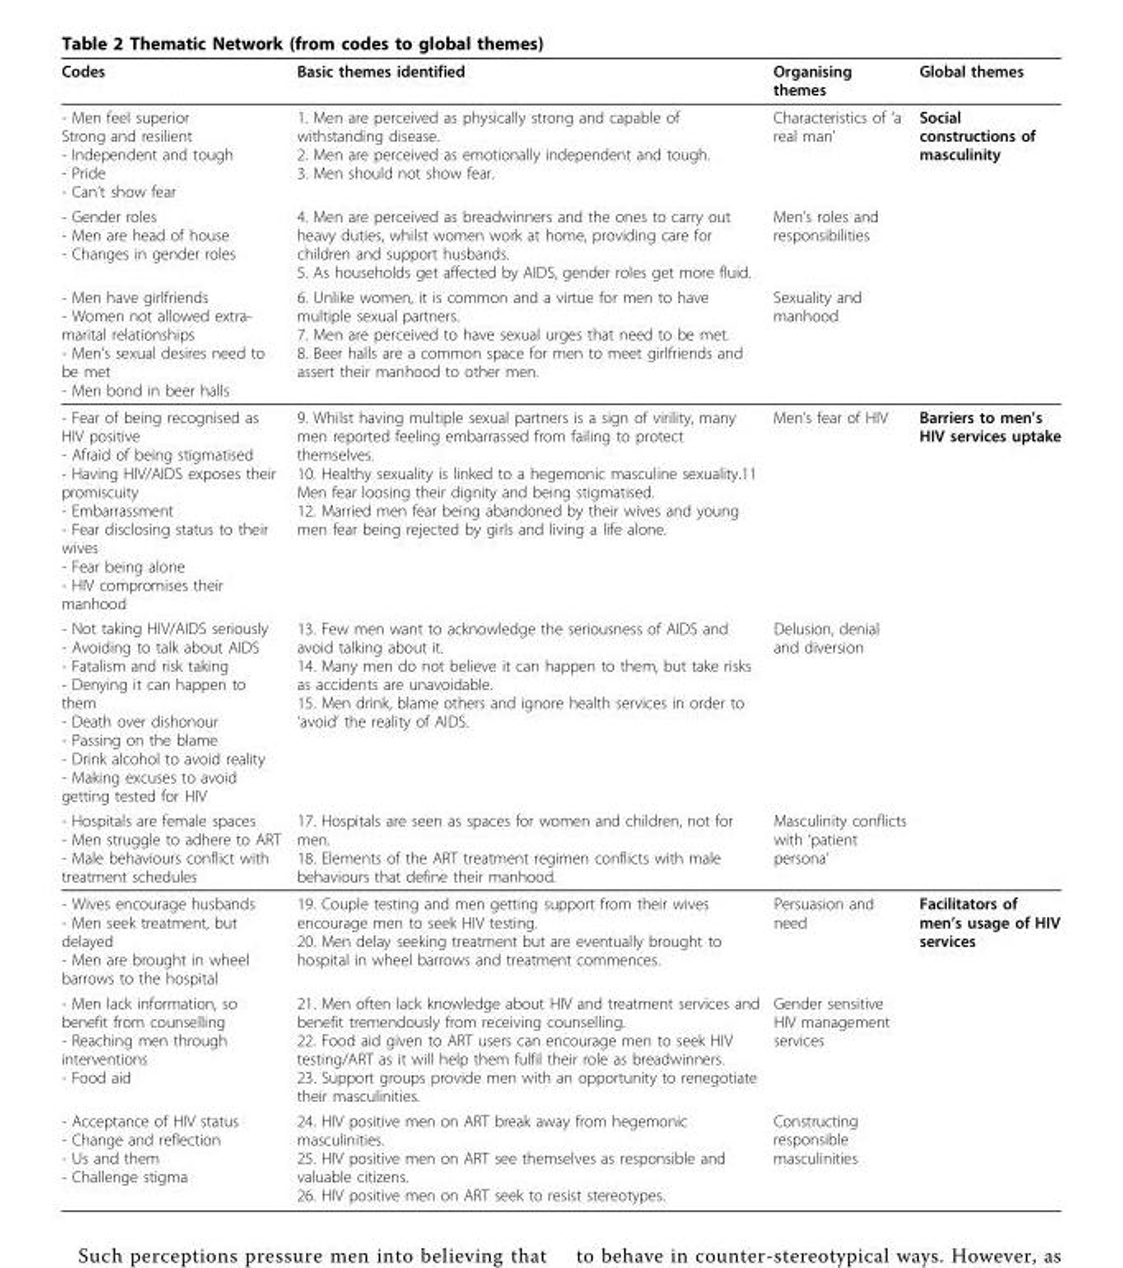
<table><thead><tr><td>Codes</td><td>Basic themes identified</td><td>Organising themes</td><td>Global themes</td></tr></thead><tbody><tr><td>- Men feel superior Strong and resilient - Independent and tough - Pride - Can’t show fear</td><td>1. Men are perceived as physically strong and capable of withstanding disease. 2. Men are perceived as emotionally independent and tough. 3. Men should not show fear.</td><td>Characteristics of ‘a real man’</td><td>Social constructions of masculinity</td></tr><tr><td>- Gender roles - Men are head of house - Changes in gender roles</td><td>4. Men are perceived as breadwinners and the ones to carry out heavy duties, whilst women work at home, providing care for children and support husbands. 5. As households get affected by AIDS, gender roles get more fluid.</td><td>Men’s roles and responsibilities</td><td></td></tr><tr><td>- Men have girlfriends - Women not allowed extra- marital relationships - Men’s sexual desires need to be met - Men bond in beer halls</td><td>6. Unlike women, it is common and a virtue for men to have multiple sexual partners. 7. Men are perceived to have sexual urges that need to be met. 8. Beer halls are a common space for men to meet girlfriends and assert their manhood to other men.</td><td>Sexuality and manhood</td><td></td></tr><tr><td>- Fear of being recognised as HIV positive - Afraid of being stigmatised - Having HIV/AIDS exposes their promiscuity - Embarrassment - Fear disclosing status to their wives - Fear being alone - HIV compromises their manhood</td><td>9. Whilst having multiple sexual partners is a sign of virility, many men reported feeling embarrassed from failing to protect themselves. 10. Healthy sexuality is linked to a hegemonic masculine sexuality.11 Men fear loosing their dignity and being stigmatised. 12. Married men fear being abandoned by their wives and young men fear being rejected by girls and living a life alone.</td><td>Men’s fear of HIV</td><td>Barriers to men’s HIV services uptake</td></tr><tr><td>- Not taking HIV/AIDS seriously - Avoiding to talk about AIDS - Fatalism and risk taking - Denying it can happen to them - Death over dishonour - Passing on the blame - Drink alcohol to avoid reality - Making excuses to avoid getting tested for HIV</td><td>13. Few men want to acknowledge the seriousness of AIDS and avoid talking about it. 14. Many men do not believe it can happen to them, but take risks as accidents are unavoidable. 15. Men drink, blame others and ignore health services in order to ‘avoid’ the reality of AIDS.</td><td>Delusion, denial and diversion</td><td></td></tr><tr><td>- Hospitals are female spaces - Men struggle to adhere to ART - Male behaviours conflict with treatment schedules</td><td>17. Hospitals are seen as spaces for women and children, not for men. 18. Elements of the ART treatment regimen conflicts with male behaviours that define their manhood.</td><td>Masculinity conflicts with ‘patient persona’</td><td></td></tr><tr><td>- Wives encourage husbands - Men seek treatment, but delayed - Men are brought in wheel barrows to the hospital</td><td>19. Couple testing and men getting support from their wives encourage men to seek HIV testing. 20. Men delay seeking treatment but are eventually brought to hospital in wheel barrows and treatment commences.</td><td>Persuasion and need</td><td>Facilitators of men’s usage of HIV services</td></tr><tr><td>- Men lack information, so benefit from counselling - Reaching men through interventions - Food aid</td><td>21. Men often lack knowledge about HIV and treatment services and benefit tremendously from receiving counselling. 22. Food aid given to ART users can encourage men to seek HIV testing/ART as it will help them fulfil their role as breadwinners. 23. Support groups provide men with an opportunity to renegotiate their masculinities.</td><td>Gender sensitive HIV management services</td><td></td></tr><tr><td>- Acceptance of HIV status - Change and reflection - Us and them - Challenge stigma</td><td>24. HIV positive men on ART break away from hegemonic masculinities. 25. HIV positive men on ART see themselves as responsible and valuable citizens. 26. HIV positive men on ART seek to resist stereotypes.</td><td>Constructing responsible masculinities</td><td></td></tr></tbody></table>